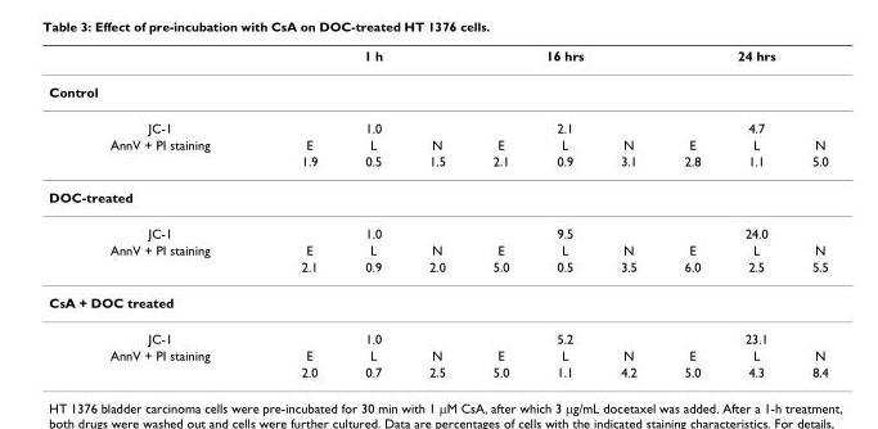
<table><thead><tr><td></td><td colspan="3">1 h</td><td colspan="3">16 hrs</td><td colspan="3">24 hrs</td></tr><tr><td colspan="10">Control</td></tr><tr><td rowspan="2">JC-1 AnnV + PI staining</td><td colspan="3">1.0</td><td colspan="3">2.1</td><td colspan="3">4.7</td></tr><tr><td>E</td><td>L</td><td>N</td><td>E</td><td>L</td><td>N</td><td>E</td><td>L</td><td>N</td></tr></thead><tbody><tr><td></td><td>1.9</td><td>0.5</td><td>1.5</td><td>2.1</td><td>0.9</td><td>3.1</td><td>2.8</td><td>1.1</td><td>5.0</td></tr><tr><td colspan="10">DOC-treated</td></tr><tr><td>JC-1</td><td colspan="3">1.0</td><td colspan="3">9.5</td><td colspan="3">24.0</td></tr><tr><td rowspan="2">AnnV + PI staining</td><td>E</td><td>L</td><td>N</td><td>E</td><td>L</td><td>N</td><td>E</td><td>L</td><td>N</td></tr><tr><td>2.1</td><td>0.9</td><td>2.0</td><td>5.0</td><td>0.5</td><td>3.5</td><td>6.0</td><td>2.5</td><td>5.5</td></tr><tr><td colspan="10">CsA + DOC treated</td></tr><tr><td>JC-1</td><td colspan="3">1.0</td><td colspan="3">5.2</td><td colspan="3">23.1</td></tr><tr><td rowspan="2">AnnV + PI staining</td><td>E</td><td>L</td><td>N</td><td>E</td><td>L</td><td>N</td><td>E</td><td>L</td><td>N</td></tr><tr><td>2.0</td><td>0.7</td><td>2.5</td><td>5.0</td><td>1.1</td><td>4.2</td><td>5.0</td><td>4.3</td><td>8.4</td></tr></tbody></table>